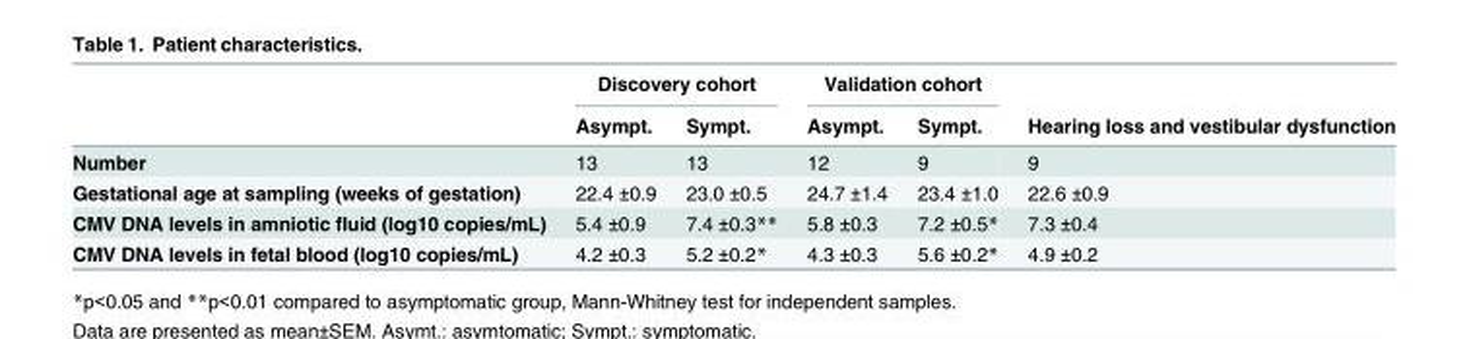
<table><thead><tr><td rowspan="2"></td><td colspan="2">Discovery cohort</td><td colspan="2">Validation cohort</td><td rowspan="2">Hearing loss and vestibular dysfunction</td></tr><tr><td>Asympt.</td><td>Sympt.</td><td>Asympt.</td><td>Sympt.</td></tr></thead><tbody><tr><td>Number</td><td>13</td><td>13</td><td>12</td><td>9</td><td>9</td></tr><tr><td>Gestational age at sampling (weeks of gestation)</td><td>22.4 ±0.9</td><td>23.0 ±0.5</td><td>24.7 ±1.4</td><td>23.4 ±1.0</td><td>22.6 ±0.9</td></tr><tr><td>CMV DNA levels in amniotic fluid (log10 copies/mL)</td><td>5.4 ±0.9</td><td>7.4 ±0.3**</td><td>5.8 ±0.3</td><td>7.2 ±0.5*</td><td>7.3 ±0.4</td></tr><tr><td>CMV DNA levels in fetal blood (log10 copies/mL)</td><td>4.2 ±0.3</td><td>5.2 ±0.2*</td><td>4.3 ±0.3</td><td>5.6 ±0.2*</td><td>4.9 ±0.2</td></tr></tbody></table>